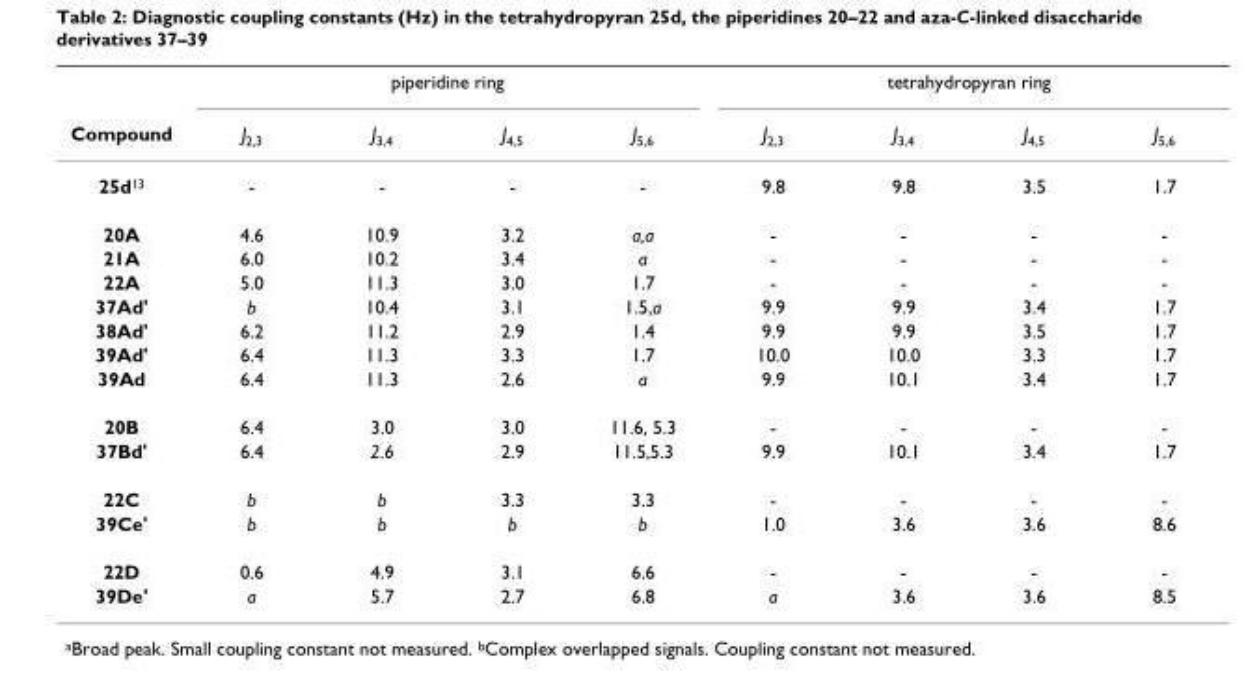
<table><thead><tr><td rowspan="2">Compound</td><td colspan="4">piperidine ring</td><td colspan="4">tetrahydropyran ring</td></tr><tr><td>J<sub>2,3</sub></td><td>J<sub>3,4</sub></td><td>J<sub>4,5</sub></td><td>J<sub>5,6</sub></td><td>J<sub>2,3</sub></td><td>J<sub>3,4</sub></td><td>J<sub>4,5</sub></td><td>J<sub>5,6</sub></td></tr></thead><tbody><tr><td>25d13</td><td>-</td><td>-</td><td>-</td><td>-</td><td>9.8</td><td>9.8</td><td>3.5</td><td>1.7</td></tr><tr><td>20A</td><td>4.6</td><td>10.9</td><td>3.2</td><td>a,a</td><td>-</td><td>-</td><td>-</td><td>-</td></tr><tr><td>21A</td><td>6.0</td><td>10.2</td><td>3.4</td><td>a</td><td>-</td><td>-</td><td>-</td><td>-</td></tr><tr><td>22A</td><td>5.0</td><td>11.3</td><td>3.0</td><td>1.7</td><td>-</td><td>-</td><td>-</td><td>-</td></tr><tr><td>37Ad&#x27;</td><td>b</td><td>10.4</td><td>3.1</td><td>1.5,a</td><td>9.9</td><td>9.9</td><td>3.4</td><td>1.7</td></tr><tr><td>38Ad&#x27;</td><td>6.2</td><td>11.2</td><td>2.9</td><td>1.4</td><td>9.9</td><td>9.9</td><td>3.5</td><td>1.7</td></tr><tr><td>39Ad&#x27;</td><td>6.4</td><td>11.3</td><td>3.3</td><td>1.7</td><td>10.0</td><td>10.0</td><td>3.3</td><td>1.7</td></tr><tr><td>39Ad</td><td>6.4</td><td>11.3</td><td>2.6</td><td>a</td><td>9.9</td><td>10.1</td><td>3.4</td><td>1.7</td></tr><tr><td>20B</td><td>6.4</td><td>3.0</td><td>3.0</td><td>11.6, 5.3</td><td>-</td><td>-</td><td>-</td><td>-</td></tr><tr><td>37Bd&#x27;</td><td>6.4</td><td>2.6</td><td>2.9</td><td>11.5,5.3</td><td>9.9</td><td>10.1</td><td>3.4</td><td>1.7</td></tr><tr><td>22C</td><td>b</td><td>b</td><td>3.3</td><td>3.3</td><td>-</td><td>-</td><td>-</td><td>-</td></tr><tr><td>39Ce&#x27;</td><td>b</td><td>b</td><td>b</td><td>b</td><td>1.0</td><td>3.6</td><td>3.6</td><td>8.6</td></tr><tr><td>22D</td><td>0.6</td><td>4.9</td><td>3.1</td><td>6.6</td><td>-</td><td>-</td><td>-</td><td>-</td></tr><tr><td>39De&#x27;</td><td>a</td><td>5.7</td><td>2.7</td><td>6.8</td><td>a</td><td>3.6</td><td>3.6</td><td>8.5</td></tr></tbody></table>